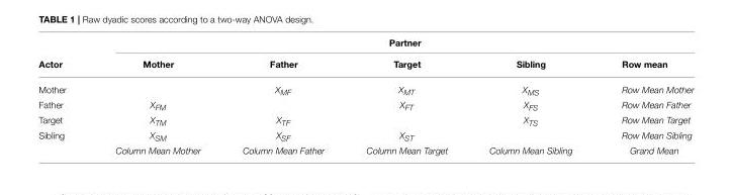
<table><thead><tr><td rowspan="2">Actor</td><td colspan="5">Partner</td></tr><tr><td>Mother</td><td>Father</td><td>Target</td><td>Sibling</td><td>Row mean</td></tr></thead><tbody><tr><td>Mother</td><td></td><td>X<sub>MF</sub></td><td>X<sub>MT</sub></td><td>X<sub>MS</sub></td><td>Row Mean Mother</td></tr><tr><td>Father</td><td>X<sub>FM</sub></td><td></td><td>X<sub>FT</sub></td><td>X<sub>FS</sub></td><td>Row Mean Father</td></tr><tr><td>Target</td><td>X<sub>TM</sub></td><td>X<sub>TF</sub></td><td></td><td>X<sub>TS</sub></td><td>Row Mean Target</td></tr><tr><td rowspan="2">Sibling</td><td>X<sub>SM</sub></td><td>X<sub>SF</sub></td><td>X<sub>ST</sub></td><td></td><td>Row Mean Sibling</td></tr><tr><td>Column Mean Mother</td><td>Column Mean Father</td><td>Column Mean Target</td><td>Column Mean Sibling</td><td>Grand Mean</td></tr></tbody></table>